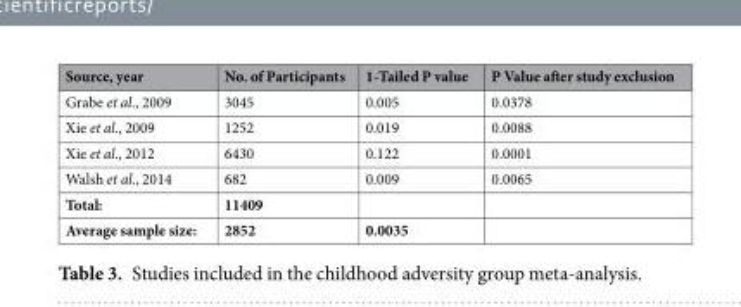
<table><thead><tr><td>Source, year</td><td>No. of Participants</td><td>1-Tailed P value</td><td>P Value after study exclusion</td></tr></thead><tbody><tr><td>Grabe et al., 2009</td><td>3045</td><td>0.005</td><td>0.0378</td></tr><tr><td>Xie et al., 2009</td><td>1252</td><td>0.019</td><td>0.0088</td></tr><tr><td>Xie et al., 2012</td><td>6430</td><td>0.122</td><td>0.0001</td></tr><tr><td>Walsh et al., 2014</td><td>682</td><td>0.009</td><td>0.0065</td></tr><tr><td>Total:</td><td>11409</td><td></td><td></td></tr><tr><td>Average sample size:</td><td>2852</td><td>0.0035</td><td></td></tr></tbody></table>